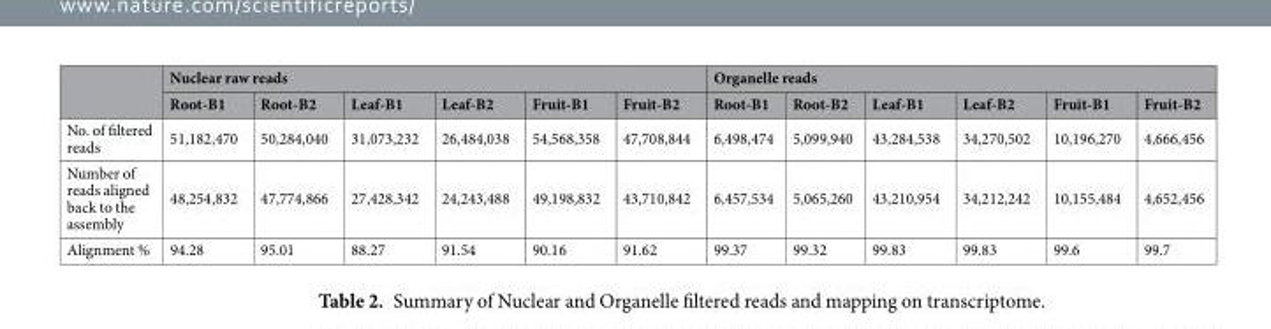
<table><thead><tr><td rowspan="2"></td><td colspan="6">Nuclear raw reads</td><td colspan="6">Organelle reads</td></tr><tr><td>Root-B1</td><td>Root-B2</td><td>Leaf-B1</td><td>Leaf-B2</td><td>Fruit-B1</td><td>Fruit-B2</td><td>Root-B1</td><td>Root-B2</td><td>Leaf-B1</td><td>Leaf-B2</td><td>Fruit-B1</td><td>Fruit-B2</td></tr></thead><tbody><tr><td>No. of filtered reads</td><td>51,182,470</td><td>50,284,040</td><td>31,073,232</td><td>26,484,038</td><td>54,568,358</td><td>47,708,844</td><td>6,498,474</td><td>5,099,940</td><td>43,284,538</td><td>34,270,502</td><td>10,196,270</td><td>4,666,456</td></tr><tr><td>Number of reads aligned back to the assembly</td><td>48,254,832</td><td>47,774,866</td><td>27,428,342</td><td>24,243,488</td><td>49,198,832</td><td>43,710,842</td><td>6,457,534</td><td>5,065,260</td><td>43,210,954</td><td>34,212,242</td><td>10,155,484</td><td>4,652,456</td></tr><tr><td>Alignment %</td><td>94.28</td><td>95.01</td><td>88.27</td><td>91.54</td><td>90.16</td><td>91.62</td><td>99.37</td><td>99.32</td><td>99.83</td><td>99.83</td><td>99.6</td><td>99.7</td></tr></tbody></table>